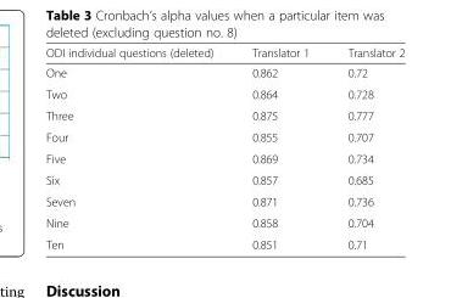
<table><thead><tr><td>ODI individual questions (deleted)</td><td>Translator 1</td><td>Translator 2</td></tr></thead><tbody><tr><td>One</td><td>0.862</td><td>0.72</td></tr><tr><td>Two</td><td>0.864</td><td>0.728</td></tr><tr><td>Three</td><td>0.875</td><td>0.777</td></tr><tr><td>Four</td><td>0.855</td><td>0.707</td></tr><tr><td>Five</td><td>0.869</td><td>0.734</td></tr><tr><td>Six</td><td>0.857</td><td>0.685</td></tr><tr><td>Seven</td><td>0.871</td><td>0.736</td></tr><tr><td>Nine</td><td>0.858</td><td>0.704</td></tr><tr><td>Ten</td><td>0.851</td><td>0.71</td></tr></tbody></table>